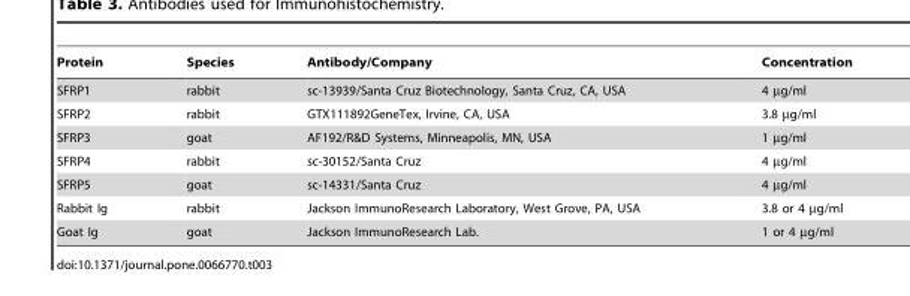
<table><thead><tr><td>Protein</td><td>Species</td><td>Antibody/Company</td><td>Concentration</td></tr></thead><tbody><tr><td>SFRP1</td><td>rabbit</td><td>sc-13939/Santa Cruz Biotechnology, Santa Cruz, CA, USA</td><td>4 µg/ml</td></tr><tr><td>SFRP2</td><td>rabbit</td><td>GTX111892GeneTex, Irvine, CA, USA</td><td>3.8 µg/ml</td></tr><tr><td>SFRP3</td><td>goat</td><td>AF192/R&amp;D Systems, Minneapolis, MN, USA</td><td>1 µg/ml</td></tr><tr><td>SFRP4</td><td>rabbit</td><td>sc-30152/Santa Cruz</td><td>4 µg/ml</td></tr><tr><td>SFRP5</td><td>goat</td><td>sc-14331/Santa Cruz</td><td>4 µg/ml</td></tr><tr><td>Rabbit Ig</td><td>rabbit</td><td>Jackson ImmunoResearch Laboratory, West Grove, PA, USA</td><td>3.8 or 4 µg/ml</td></tr><tr><td>Goat Ig</td><td>goat</td><td>Jackson ImmunoResearch Lab.</td><td>1 or 4 µg/ml</td></tr></tbody></table>